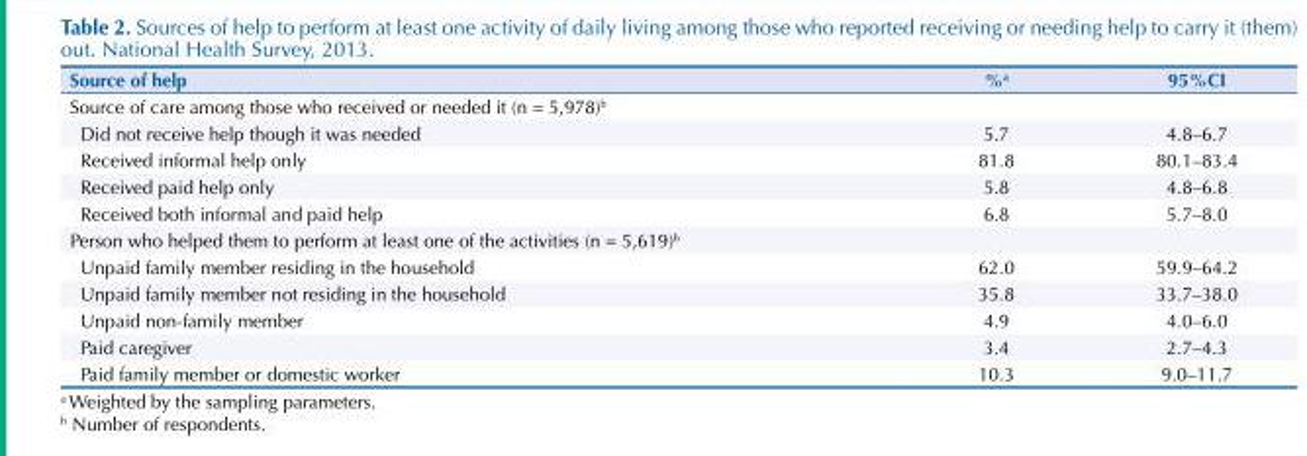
<table><thead><tr><td>Source of help</td><td>%<sup>a</sup></td><td>95%CI</td></tr></thead><tbody><tr><td colspan="3">Source of care among those who received or needed it (n = 5,978)<sup>b</sup></td></tr><tr><td>Did not receive help though it was needed</td><td>5.7</td><td>4.8–6.7</td></tr><tr><td>Received informal help only</td><td>81.8</td><td>80.1–83.4</td></tr><tr><td>Received paid help only</td><td>5.8</td><td>4.8–6.8</td></tr><tr><td>Received both informal and paid help</td><td>6.8</td><td>5.7–8.0</td></tr><tr><td colspan="3">Person who helped them to perform at least one of the activities (n = 5,619)<sup>b</sup></td></tr><tr><td>Unpaid family member residing in the household</td><td>62.0</td><td>59.9–64.2</td></tr><tr><td>Unpaid family member not residing in the household</td><td>35.8</td><td>33.7–38.0</td></tr><tr><td>Unpaid non-family member</td><td>4.9</td><td>4.0–6.0</td></tr><tr><td>Paid caregiver</td><td>3.4</td><td>2.7–4.3</td></tr><tr><td>Paid family member or domestic worker</td><td>10.3</td><td>9.0–11.7</td></tr></tbody></table>